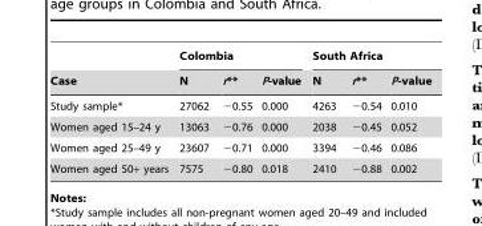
<table><thead><tr><td rowspan="2">Case</td><td colspan="3">Colombia</td><td colspan="3">South Africa</td></tr><tr><td>N</td><td>r**</td><td>P-value</td><td>N</td><td>r**</td><td>P-value</td></tr></thead><tbody><tr><td>Study sample*</td><td>27062</td><td>−0.55</td><td>0.000</td><td>4263</td><td>−0.54</td><td>0.010</td></tr><tr><td>Women aged 15–24 y</td><td>13063</td><td>−0.76</td><td>0.000</td><td>2038</td><td>−0.45</td><td>0.052</td></tr><tr><td>Women aged 25–49 y</td><td>23607</td><td>−0.71</td><td>0.000</td><td>3394</td><td>−0.46</td><td>0.086</td></tr><tr><td>Women aged 50+ years</td><td>7575</td><td>−0.80</td><td>0.018</td><td>2410</td><td>−0.88</td><td>0.002</td></tr></tbody></table>